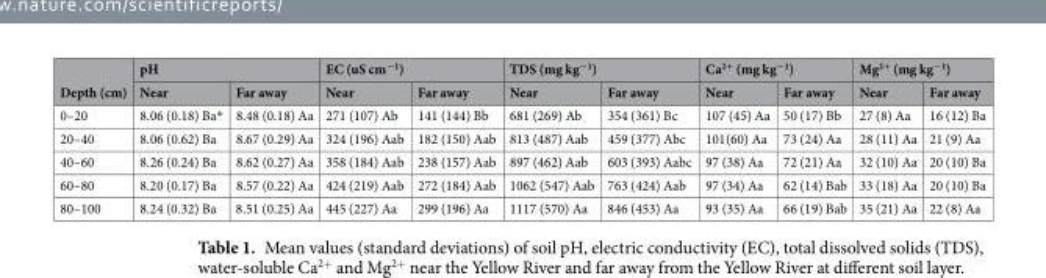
<table><thead><tr><td rowspan="2">Depth (cm)</td><td colspan="2">pH</td><td colspan="2">EC (uS cm<sup>−1</sup>)</td><td colspan="2">TDS (mg kg<sup>−1</sup>)</td><td colspan="2">Ca<sup>2+</sup> (mg kg<sup>−1</sup>)</td><td colspan="2">Mg<sup>2+</sup> (mg kg<sup>−1</sup>)</td></tr><tr><td>Near</td><td>Far away</td><td>Near</td><td>Far away</td><td>Near</td><td>Far away</td><td>Near</td><td>Far away</td><td>Near</td><td>Far away</td></tr></thead><tbody><tr><td>0–20</td><td>8.06 (0.18) Ba*</td><td>8.48 (0.18) Aa</td><td>271 (107) Ab</td><td>141 (144) Bb</td><td>681 (269) Ab</td><td>354 (361) Bc</td><td>107 (45) Aa</td><td>50 (17) Bb</td><td>27 (8) Aa</td><td>16 (12) Ba</td></tr><tr><td>20–40</td><td>8.06 (0.62) Ba</td><td>8.67 (0.29) Aa</td><td>324 (196) Aab</td><td>182 (150) Aab</td><td>813 (487) Aab</td><td>459 (377) Abc</td><td>101(60) Aa</td><td>73 (24) Aa</td><td>28 (11) Aa</td><td>21 (9) Aa</td></tr><tr><td>40–60</td><td>8.26 (0.24) Ba</td><td>8.62 (0.27) Aa</td><td>358 (184) Aab</td><td>238 (157) Aab</td><td>897 (462) Aab</td><td>603 (393) Aabc</td><td>97 (38) Aa</td><td>72 (21) Aa</td><td>32 (10) Aa</td><td>20 (10) Ba</td></tr><tr><td>60–80</td><td>8.20 (0.17) Ba</td><td>8.57 (0.22) Aa</td><td>424 (219) Aab</td><td>272 (184) Aab</td><td>1062 (547) Aab</td><td>763 (424) Aab</td><td>97 (34) Aa</td><td>62 (14) Bab</td><td>33 (18) Aa</td><td>20 (10) Ba</td></tr><tr><td>80–100</td><td>8.24 (0.32) Ba</td><td>8.51 (0.25) Aa</td><td>445 (227) Aa</td><td>299 (196) Aa</td><td>1117 (570) Aa</td><td>846 (453) Aa</td><td>93 (35) Aa</td><td>66 (19) Bab</td><td>35 (21) Aa</td><td>22 (8) Aa</td></tr></tbody></table>